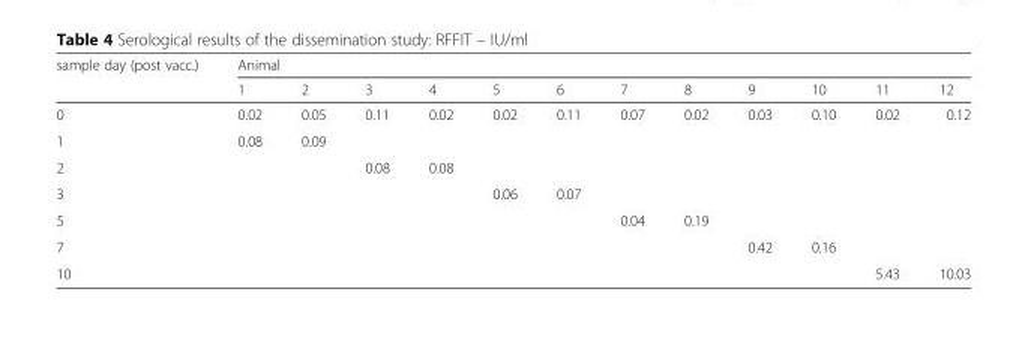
<table><thead><tr><td rowspan="2">sample day (post vacc.)</td><td colspan="12">Animal</td></tr><tr><td>1</td><td>2</td><td>3</td><td>4</td><td>5</td><td>6</td><td>7</td><td>8</td><td>9</td><td>10</td><td>11</td><td>12</td></tr></thead><tbody><tr><td>0</td><td>0.02</td><td>0.05</td><td>0.11</td><td>0.02</td><td>0.02</td><td>0.11</td><td>0.07</td><td>0.02</td><td>0.03</td><td>0.10</td><td>0.02</td><td>0.12</td></tr><tr><td>1</td><td>0.08</td><td>0.09</td><td></td><td></td><td></td><td></td><td></td><td></td><td></td><td></td><td></td><td></td></tr><tr><td>2</td><td></td><td></td><td>0.08</td><td>0.08</td><td></td><td></td><td></td><td></td><td></td><td></td><td></td><td></td></tr><tr><td>3</td><td></td><td></td><td></td><td></td><td>0.06</td><td>0.07</td><td></td><td></td><td></td><td></td><td></td><td></td></tr><tr><td>5</td><td></td><td></td><td></td><td></td><td></td><td></td><td>0.04</td><td>0.19</td><td></td><td></td><td></td><td></td></tr><tr><td>7</td><td></td><td></td><td></td><td></td><td></td><td></td><td></td><td></td><td>0.42</td><td>0.16</td><td></td><td></td></tr><tr><td>10</td><td></td><td></td><td></td><td></td><td></td><td></td><td></td><td></td><td></td><td></td><td>5.43</td><td>10.03</td></tr></tbody></table>